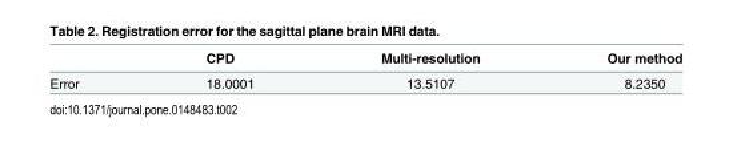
<table><thead><tr><td></td><td>CPD</td><td>Multi-resolution</td><td>Our method</td></tr></thead><tbody><tr><td>Error</td><td>18.0001</td><td>13.5107</td><td>8.2350</td></tr></tbody></table>